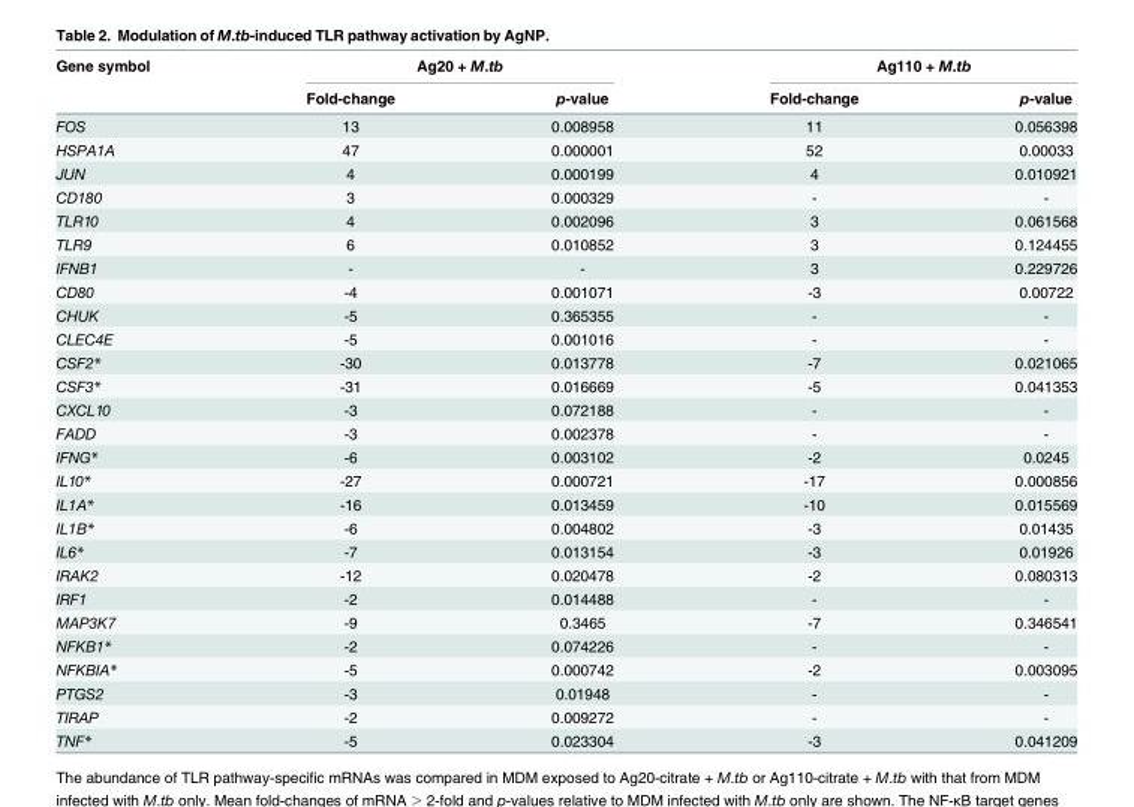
<table><thead><tr><td rowspan="2">Gene symbol</td><td colspan="2">Ag20 + M.tb</td><td colspan="2">Ag110 + M.tb</td></tr><tr><td>Fold-change</td><td>p-value</td><td>Fold-change</td><td>p-value</td></tr></thead><tbody><tr><td>FOS</td><td>13</td><td>0.008958</td><td>11</td><td>0.056398</td></tr><tr><td>HSPA1A</td><td>47</td><td>0.000001</td><td>52</td><td>0.00033</td></tr><tr><td>JUN</td><td>4</td><td>0.000199</td><td>4</td><td>0.010921</td></tr><tr><td>CD180</td><td>3</td><td>0.000329</td><td>-</td><td>-</td></tr><tr><td>TLR10</td><td>4</td><td>0.002096</td><td>3</td><td>0.061568</td></tr><tr><td>TLR9</td><td>6</td><td>0.010852</td><td>3</td><td>0.124455</td></tr><tr><td>IFNB1</td><td>-</td><td>-</td><td>3</td><td>0.229726</td></tr><tr><td>CD80</td><td>-4</td><td>0.001071</td><td>-3</td><td>0.00722</td></tr><tr><td>CHUK</td><td>-5</td><td>0.365355</td><td>-</td><td>-</td></tr><tr><td>CLEC4E</td><td>-5</td><td>0.001016</td><td>-</td><td>-</td></tr><tr><td>CSF2*</td><td>-30</td><td>0.013778</td><td>-7</td><td>0.021065</td></tr><tr><td>CSF3*</td><td>-31</td><td>0.016669</td><td>-5</td><td>0.041353</td></tr><tr><td>CXCL10</td><td>-3</td><td>0.072188</td><td>-</td><td>-</td></tr><tr><td>FADD</td><td>-3</td><td>0.002378</td><td>-</td><td>-</td></tr><tr><td>IFNG*</td><td>-6</td><td>0.003102</td><td>-2</td><td>0.0245</td></tr><tr><td>IL10*</td><td>-27</td><td>0.000721</td><td>-17</td><td>0.000856</td></tr><tr><td>IL1A*</td><td>-16</td><td>0.013459</td><td>-10</td><td>0.015569</td></tr><tr><td>IL1B*</td><td>-6</td><td>0.004802</td><td>-3</td><td>0.01435</td></tr><tr><td>IL6*</td><td>-7</td><td>0.013154</td><td>-3</td><td>0.01926</td></tr><tr><td>IRAK2</td><td>-12</td><td>0.020478</td><td>-2</td><td>0.080313</td></tr><tr><td>IRF1</td><td>-2</td><td>0.014488</td><td>-</td><td>-</td></tr><tr><td>MAP3K7</td><td>-9</td><td>0.3465</td><td>-7</td><td>0.346541</td></tr><tr><td>NFKB1*</td><td>-2</td><td>0.074226</td><td>-</td><td>-</td></tr><tr><td>NFKBIA*</td><td>-5</td><td>0.000742</td><td>-2</td><td>0.003095</td></tr><tr><td>PTGS2</td><td>-3</td><td>0.01948</td><td>-</td><td>-</td></tr><tr><td>TIRAP</td><td>-2</td><td>0.009272</td><td>-</td><td>-</td></tr><tr><td>TNF*</td><td>-5</td><td>0.023304</td><td>-3</td><td>0.041209</td></tr></tbody></table>